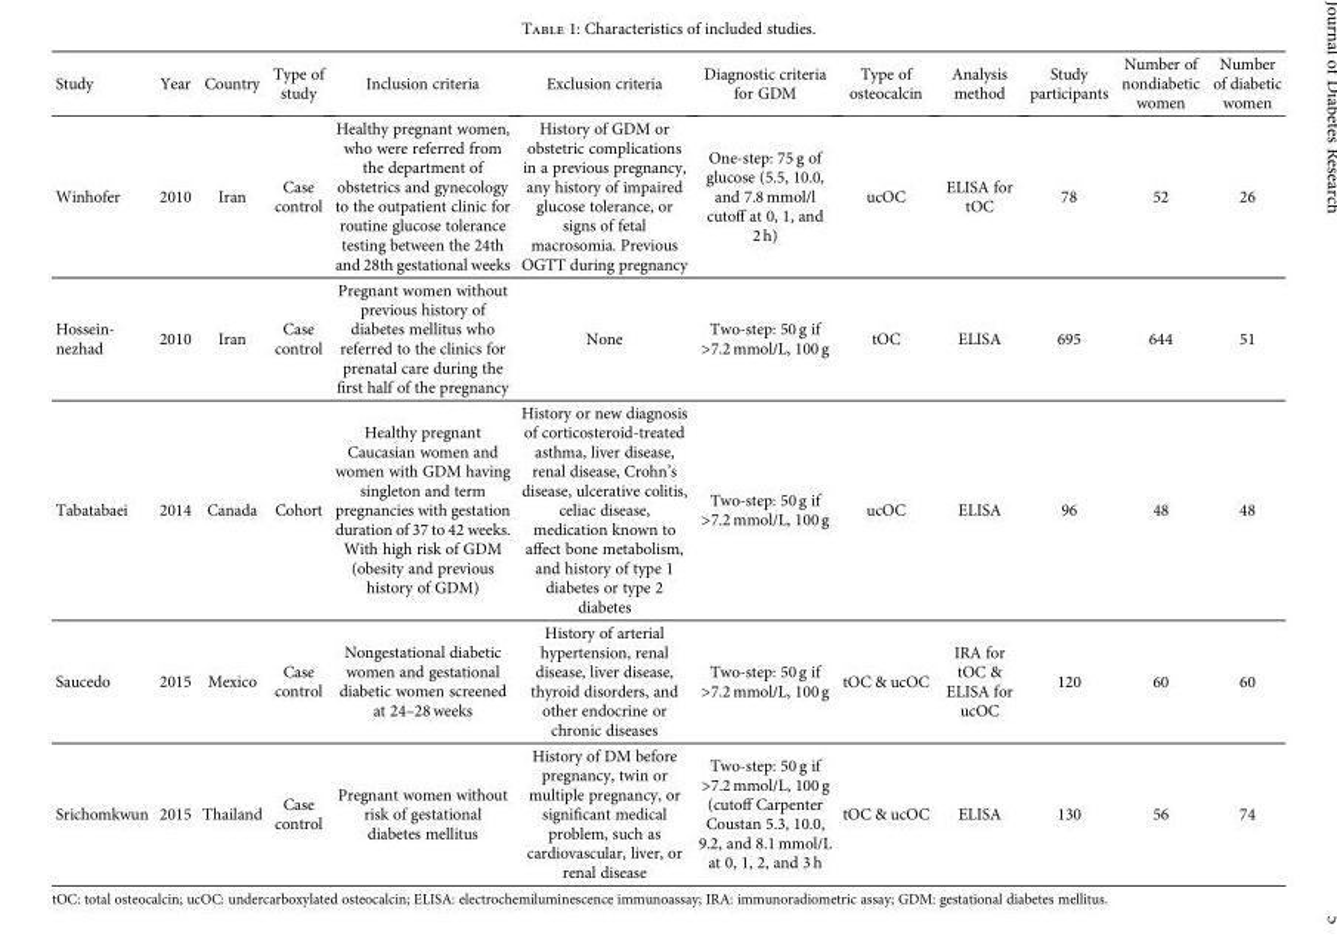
<table><thead><tr><td>Study</td><td>Year</td><td>Country</td><td>Type of study</td><td>Inclusion criteria</td><td>Exclusion criteria</td><td>Diagnostic criteria for GDM</td><td>Type of osteocalcin</td><td>Analysis method</td><td>Study participants</td><td>Number of nondiabetic women</td><td>Number of diabetic women</td></tr></thead><tbody><tr><td>Winhofer</td><td>2010</td><td>Iran</td><td>Case control</td><td>Healthy pregnant women, who were referred from the department of obstetrics and gynecology to the outpatient clinic for routine glucose tolerance testing between the 24th and 28th gestational weeks</td><td>History of GDM or obstetric complications in a previous pregnancy, any history of impaired glucose tolerance, or signs of fetal macrosomia. Previous OGTT during pregnancy</td><td>One-step: 75 g of glucose (5.5, 10.0, and 7.8 mmol/l cutoff at 0, 1, and 2 h)</td><td>ucOC</td><td>ELISA for tOC</td><td>78</td><td>52</td><td>26</td></tr><tr><td>Hossein- nezhad</td><td>2010</td><td>Iran</td><td>Case control</td><td>Pregnant women without previous history of diabetes mellitus who referred to the clinics for prenatal care during the first half of the pregnancy</td><td>None</td><td>Two-step: 50 g if &gt;7.2 mmol/L, 100 g</td><td>tOC</td><td>ELISA</td><td>695</td><td>644</td><td>51</td></tr><tr><td>Tabatabaei</td><td>2014</td><td>Canada</td><td>Cohort</td><td>Healthy pregnant Caucasian women and women with GDM having singleton and term pregnancies with gestation duration of 37 to 42 weeks. With high risk of GDM (obesity and previous history of GDM)</td><td>History or new diagnosis of corticosteroid-treated asthma, liver disease, renal disease, Crohn’s disease, ulcerative colitis, celiac disease, medication known to affect bone metabolism, and history of type 1 diabetes or type 2 diabetes</td><td>Two-step: 50 g if &gt;7.2 mmol/L, 100 g</td><td>ucOC</td><td>ELISA</td><td>96</td><td>48</td><td>48</td></tr><tr><td>Saucedo</td><td>2015</td><td>Mexico</td><td>Case control</td><td>Nongestational diabetic women and gestational diabetic women screened at 24–28 weeks</td><td>History of arterial hypertension, renal disease, liver disease, thyroid disorders, and other endocrine or chronic diseases</td><td>Two-step: 50 g if &gt;7.2 mmol/L, 100 g</td><td>tOC &amp; ucOC</td><td>IRA for tOC &amp; ELISA for ucOC</td><td>120</td><td>60</td><td>60</td></tr><tr><td>Srichomkwun</td><td>2015</td><td>Thailand</td><td>Case control</td><td>Pregnant women without risk of gestational diabetes mellitus</td><td>History of DM before pregnancy, twin or multiple pregnancy, or significant medical problem, such as cardiovascular, liver, or renal disease</td><td>Two-step: 50 g if &gt;7.2 mmol/L, 100 g (cutoff Carpenter Coustan 5.3, 10.0, 9.2, and 8.1 mmol/L at 0, 1, 2, and 3 h</td><td>tOC &amp; ucOC</td><td>ELISA</td><td>130</td><td>56</td><td>74</td></tr></tbody></table>